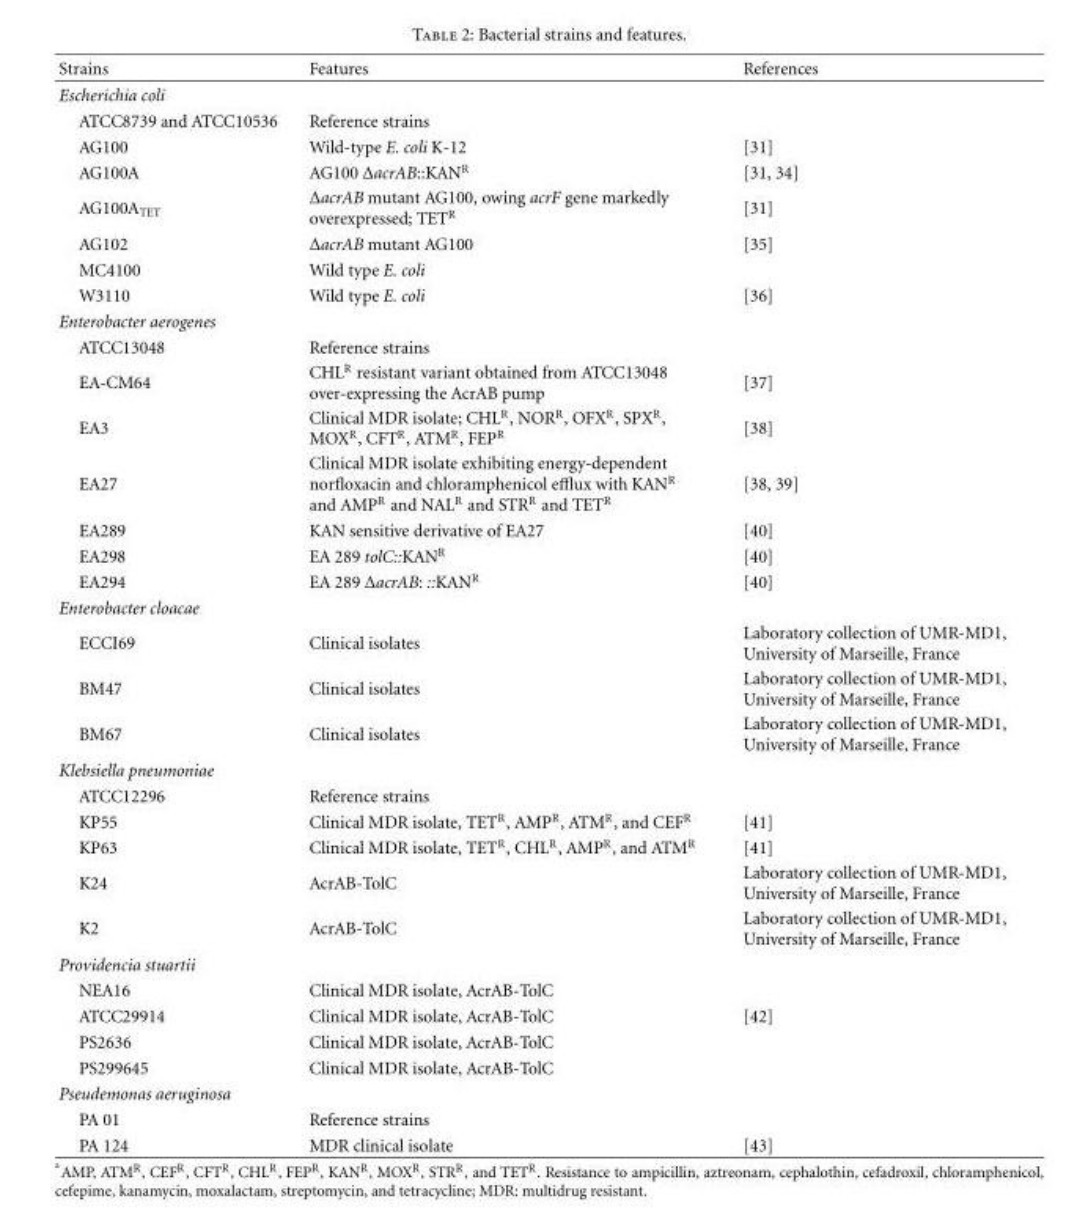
<table><thead><tr><td>Strains</td><td>Features</td><td>References</td></tr></thead><tbody><tr><td colspan="3">Escherichia coli</td></tr><tr><td>ATCC8739 and ATCC10536</td><td>Reference strains</td><td></td></tr><tr><td>AG100</td><td>Wild-type E. coli K-12</td><td>[31]</td></tr><tr><td>AG100A</td><td>AG100 ΔacrAB::KAN<sup>R</sup></td><td>[31, 34]</td></tr><tr><td>AG100A<sub>TET</sub></td><td>ΔacrAB mutant AG100, owing acrF gene markedly overexpressed; TET<sup>R</sup></td><td>[31]</td></tr><tr><td>AG102</td><td>ΔacrAB mutant AG100</td><td>[35]</td></tr><tr><td>MC4100</td><td>Wild type E. coli</td><td></td></tr><tr><td>W3110</td><td>Wild type E. coli</td><td>[36]</td></tr><tr><td colspan="3">Enterobacter aerogenes</td></tr><tr><td>ATCC13048</td><td>Reference strains</td><td></td></tr><tr><td>EA-CM64</td><td>CHL<sup>R</sup> resistant variant obtained from ATCC13048 over-expressing the AcrAB pump</td><td>[37]</td></tr><tr><td>EA3</td><td>Clinical MDR isolate; CHL<sup>R</sup>, NOR<sup>R</sup>, OFX<sup>R</sup>, SPX<sup>R</sup>, MOX<sup>R</sup>, CFT<sup>R</sup>, ATM<sup>R</sup>, FEP<sup>R</sup></td><td>[38]</td></tr><tr><td>EA27</td><td>Clinical MDR isolate exhibiting energy-dependent norfloxacin and chloramphenicol efflux with KAN<sup>R</sup> and AMP<sup>R</sup> and NAL<sup>R</sup> and STR<sup>R</sup> and TET<sup>R</sup></td><td>[38, 39]</td></tr><tr><td>EA289</td><td>KAN sensitive derivative of EA27</td><td>[40]</td></tr><tr><td>EA298</td><td>EA 289 tolC::KAN<sup>R</sup></td><td>[40]</td></tr><tr><td>EA294</td><td>EA 289 ΔacrAB: ::KAN<sup>R</sup></td><td>[40]</td></tr><tr><td colspan="3">Enterobacter cloacae</td></tr><tr><td>ECCI69</td><td>Clinical isolates</td><td>Laboratory collection of UMR-MD1, University of Marseille, France</td></tr><tr><td>BM47</td><td>Clinical isolates</td><td>Laboratory collection of UMR-MD1, University of Marseille, France</td></tr><tr><td>BM67</td><td>Clinical isolates</td><td>Laboratory collection of UMR-MD1, University of Marseille, France</td></tr><tr><td colspan="3">Klebsiella pneumoniae</td></tr><tr><td>ATCC12296</td><td>Reference strains</td><td></td></tr><tr><td>KP55</td><td>Clinical MDR isolate, TET<sup>R</sup>, AMP<sup>R</sup>, ATM<sup>R</sup>, and CEF<sup>R</sup></td><td>[41]</td></tr><tr><td>KP63</td><td>Clinical MDR isolate, TET<sup>R</sup>, CHL<sup>R</sup>, AMP<sup>R</sup>, and ATM<sup>R</sup></td><td>[41]</td></tr><tr><td>K24</td><td>AcrAB-TolC</td><td>Laboratory collection of UMR-MD1, University of Marseille, France</td></tr><tr><td>K2</td><td>AcrAB-TolC</td><td>Laboratory collection of UMR-MD1, University of Marseille, France</td></tr><tr><td colspan="3">Providencia stuartii</td></tr><tr><td>NEA16</td><td>Clinical MDR isolate, AcrAB-TolC</td><td></td></tr><tr><td>ATCC29914</td><td>Clinical MDR isolate, AcrAB-TolC</td><td>[42]</td></tr><tr><td>PS2636</td><td>Clinical MDR isolate, AcrAB-TolC</td><td></td></tr><tr><td>PS299645</td><td>Clinical MDR isolate, AcrAB-TolC</td><td></td></tr><tr><td colspan="3">Pseudemonas aeruginosa</td></tr><tr><td>PA 01</td><td>Reference strains</td><td></td></tr><tr><td>PA 124</td><td>MDR clinical isolate</td><td>[43]</td></tr></tbody></table>